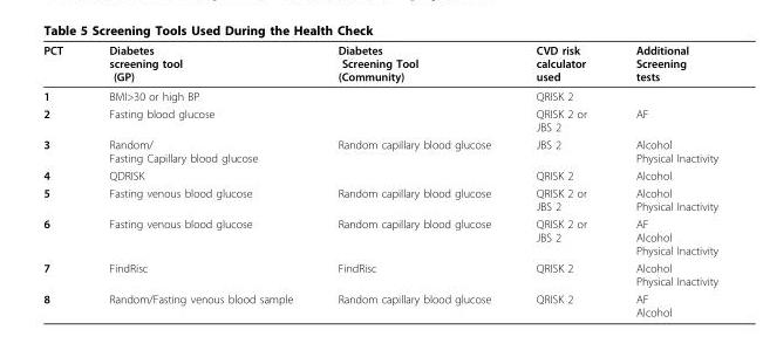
<table><thead><tr><td>PCT</td><td>Diabetes screening tool (GP)</td><td>Diabetes Screening Tool (Community)</td><td>CVD risk calculator used</td><td>Additional Screening tests</td></tr></thead><tbody><tr><td>1</td><td>BMI&gt;30 or high BP</td><td></td><td>QRISK 2</td><td></td></tr><tr><td>2</td><td>Fasting blood glucose</td><td></td><td>QRISK 2 or JBS 2</td><td>AF</td></tr><tr><td>3</td><td>Random/ Fasting Capillary blood glucose</td><td>Random capillary blood glucose</td><td>JBS 2</td><td>Alcohol Physical Inactivity</td></tr><tr><td>4</td><td>QDRISK</td><td></td><td>QRISK 2</td><td>Alcohol</td></tr><tr><td>5</td><td>Fasting venous blood glucose</td><td>Random capillary blood glucose</td><td>QRISK 2 or JBS 2</td><td>Alcohol Physical Inactivity</td></tr><tr><td>6</td><td>Fasting venous blood glucose</td><td>Random capillary blood glucose</td><td>QRISK 2 or JBS 2</td><td>AF Alcohol Physical Inactivity</td></tr><tr><td>7</td><td>FindRisc</td><td>FindRisc</td><td>QRISK 2</td><td>Alcohol Physical Inactivity</td></tr><tr><td>8</td><td>Random/Fasting venous blood sample</td><td>Random capillary blood glucose</td><td>QRISK 2</td><td>AF Alcohol</td></tr></tbody></table>